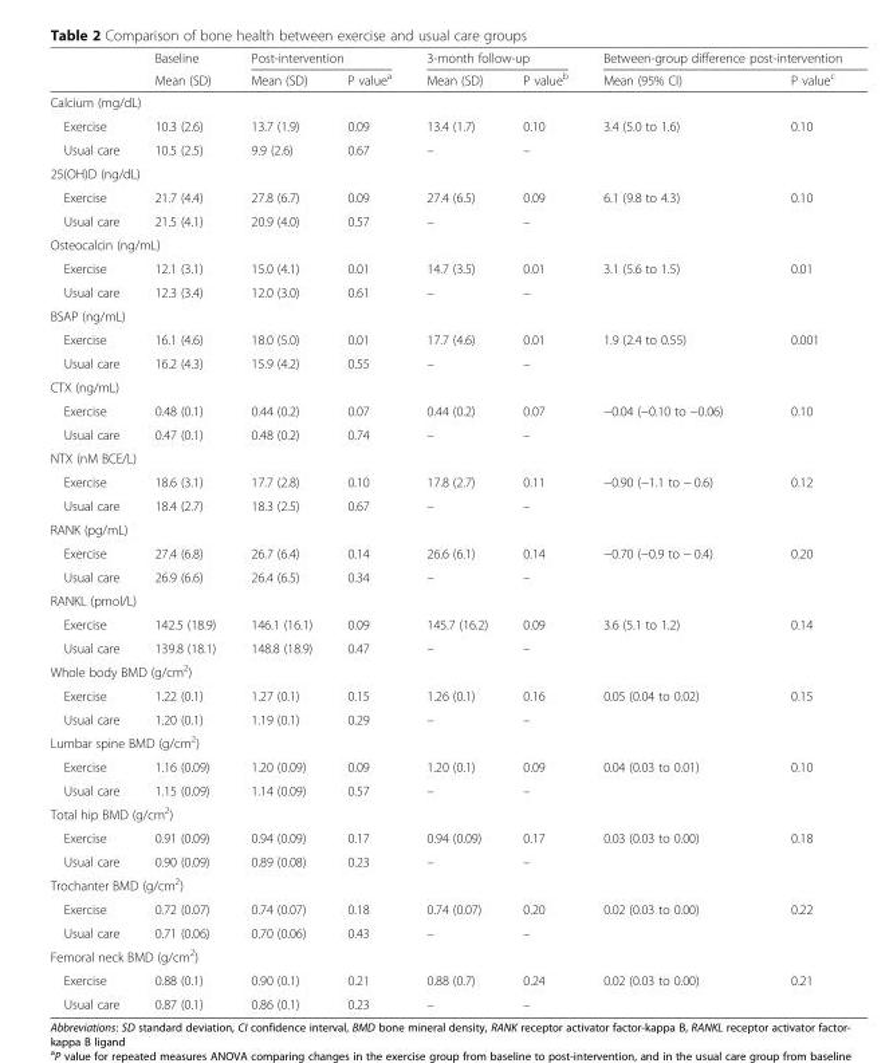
<table><thead><tr><td rowspan="2"></td><td rowspan="2">Baseline Mean (SD)</td><td colspan="2">Post-intervention</td><td colspan="2">3-month follow-up</td><td colspan="2">Between-group difference post-intervention</td></tr><tr><td>Mean (SD)</td><td>P value<sup>a</sup></td><td>Mean (SD)</td><td>P value<sup>b</sup></td><td>Mean (95% CI)</td><td>P value<sup>c</sup></td></tr></thead><tbody><tr><td colspan="8">Calcium (mg/dL)</td></tr><tr><td>Exercise</td><td>10.3 (2.6)</td><td>13.7 (1.9)</td><td>0.09</td><td>13.4 (1.7)</td><td>0.10</td><td rowspan="2">3.4 (5.0 to 1.6)</td><td rowspan="2">0.10</td></tr><tr><td>Usual care</td><td>10.5 (2.5)</td><td>9.9 (2.6)</td><td>0.67</td><td>–</td><td>–</td></tr><tr><td colspan="8">25(OH)D (ng/dL)</td></tr><tr><td>Exercise</td><td>21.7 (4.4)</td><td>27.8 (6.7)</td><td>0.09</td><td>27.4 (6.5)</td><td>0.09</td><td rowspan="2">6.1 (9.8 to 4.3)</td><td rowspan="2">0.10</td></tr><tr><td>Usual care</td><td>21.5 (4.1)</td><td>20.9 (4.0)</td><td>0.57</td><td>–</td><td>–</td></tr><tr><td colspan="8">Osteocalcin (ng/mL)</td></tr><tr><td>Exercise</td><td>12.1 (3.1)</td><td>15.0 (4.1)</td><td>0.01</td><td>14.7 (3.5)</td><td>0.01</td><td rowspan="2">3.1 (5.6 to 1.5)</td><td rowspan="2">0.01</td></tr><tr><td>Usual care</td><td>12.3 (3.4)</td><td>12.0 (3.0)</td><td>0.61</td><td>–</td><td>–</td></tr><tr><td colspan="8">BSAP (ng/mL)</td></tr><tr><td>Exercise</td><td>16.1 (4.6)</td><td>18.0 (5.0)</td><td>0.01</td><td>17.7 (4.6)</td><td>0.01</td><td rowspan="2">1.9 (2.4 to 0.55)</td><td rowspan="2">0.001</td></tr><tr><td>Usual care</td><td>16.2 (4.3)</td><td>15.9 (4.2)</td><td>0.55</td><td>–</td><td>–</td></tr><tr><td colspan="8">CTX (ng/mL)</td></tr><tr><td>Exercise</td><td>0.48 (0.1)</td><td>0.44 (0.2)</td><td>0.07</td><td>0.44 (0.2)</td><td>0.07</td><td rowspan="2">−0.04 (−0.10 to −0.06)</td><td rowspan="2">0.10</td></tr><tr><td>Usual care</td><td>0.47 (0.1)</td><td>0.48 (0.2)</td><td>0.74</td><td>–</td><td>–</td></tr><tr><td colspan="8">NTX (nM BCE/L)</td></tr><tr><td>Exercise</td><td>18.6 (3.1)</td><td>17.7 (2.8)</td><td>0.10</td><td>17.8 (2.7)</td><td>0.11</td><td rowspan="2">−0.90 (−1.1 to − 0.6)</td><td rowspan="2">0.12</td></tr><tr><td>Usual care</td><td>18.4 (2.7)</td><td>18.3 (2.5)</td><td>0.67</td><td>–</td><td>–</td></tr><tr><td colspan="8">RANK (pg/mL)</td></tr><tr><td>Exercise</td><td>27.4 (6.8)</td><td>26.7 (6.4)</td><td>0.14</td><td>26.6 (6.1)</td><td>0.14</td><td rowspan="2">−0.70 (−0.9 to − 0.4)</td><td rowspan="2">0.20</td></tr><tr><td>Usual care</td><td>26.9 (6.6)</td><td>26.4 (6.5)</td><td>0.34</td><td>–</td><td>–</td></tr><tr><td colspan="8">RANKL (pmol/L)</td></tr><tr><td>Exercise</td><td>142.5 (18.9)</td><td>146.1 (16.1)</td><td>0.09</td><td>145.7 (16.2)</td><td>0.09</td><td rowspan="2">3.6 (5.1 to 1.2)</td><td rowspan="2">0.14</td></tr><tr><td>Usual care</td><td>139.8 (18.1)</td><td>148.8 (18.9)</td><td>0.47</td><td>–</td><td>–</td></tr><tr><td colspan="8">Whole body BMD (g/cm<sup>2</sup>)</td></tr><tr><td>Exercise</td><td>1.22 (0.1)</td><td>1.27 (0.1)</td><td>0.15</td><td>1.26 (0.1)</td><td>0.16</td><td rowspan="2">0.05 (0.04 to 0.02)</td><td rowspan="2">0.15</td></tr><tr><td>Usual care</td><td>1.20 (0.1)</td><td>1.19 (0.1)</td><td>0.29</td><td>–</td><td>–</td></tr><tr><td colspan="8">Lumbar spine BMD (g/cm<sup>2</sup>)</td></tr><tr><td>Exercise</td><td>1.16 (0.09)</td><td>1.20 (0.09)</td><td>0.09</td><td>1.20 (0.1)</td><td>0.09</td><td rowspan="2">0.04 (0.03 to 0.01)</td><td rowspan="2">0.10</td></tr><tr><td>Usual care</td><td>1.15 (0.09)</td><td>1.14 (0.09)</td><td>0.57</td><td>–</td><td>–</td></tr><tr><td colspan="8">Total hip BMD (g/cm<sup>2</sup>)</td></tr><tr><td>Exercise</td><td>0.91 (0.09)</td><td>0.94 (0.09)</td><td>0.17</td><td>0.94 (0.09)</td><td>0.17</td><td rowspan="2">0.03 (0.03 to 0.00)</td><td rowspan="2">0.18</td></tr><tr><td>Usual care</td><td>0.90 (0.09)</td><td>0.89 (0.08)</td><td>0.23</td><td>–</td><td>–</td></tr><tr><td colspan="8">Trochanter BMD (g/cm<sup>2</sup>)</td></tr><tr><td>Exercise</td><td>0.72 (0.07)</td><td>0.74 (0.07)</td><td>0.18</td><td>0.74 (0.07)</td><td>0.20</td><td rowspan="2">0.02 (0.03 to 0.00)</td><td rowspan="2">0.22</td></tr><tr><td>Usual care</td><td>0.71 (0.06)</td><td>0.70 (0.06)</td><td>0.43</td><td>–</td><td>–</td></tr><tr><td colspan="8">Femoral neck BMD (g/cm<sup>2</sup>)</td></tr><tr><td>Exercise</td><td>0.88 (0.1)</td><td>0.90 (0.1)</td><td>0.21</td><td>0.88 (0.7)</td><td>0.24</td><td rowspan="2">0.02 (0.03 to 0.00)</td><td rowspan="2">0.21</td></tr><tr><td>Usual care</td><td>0.87 (0.1)</td><td>0.86 (0.1)</td><td>0.23</td><td>–</td><td>–</td></tr></tbody></table>